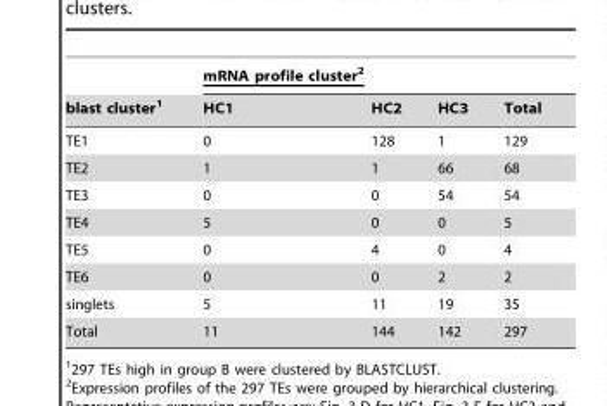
<table><thead><tr><td rowspan="2">blast cluster<sup>1</sup></td><td colspan="4">mRNA profile cluster2</td></tr><tr><td>HC1</td><td>HC2</td><td>HC3</td><td>Total</td></tr></thead><tbody><tr><td>TE1</td><td>0</td><td>128</td><td>1</td><td>129</td></tr><tr><td>TE2</td><td>1</td><td>1</td><td>66</td><td>68</td></tr><tr><td>TE3</td><td>0</td><td>0</td><td>54</td><td>54</td></tr><tr><td>TE4</td><td>5</td><td>0</td><td>0</td><td>5</td></tr><tr><td>TE5</td><td>0</td><td>4</td><td>0</td><td>4</td></tr><tr><td>TE6</td><td>0</td><td>0</td><td>2</td><td>2</td></tr><tr><td>singlets</td><td>5</td><td>11</td><td>19</td><td>35</td></tr><tr><td>Total</td><td>11</td><td>144</td><td>142</td><td>297</td></tr></tbody></table>